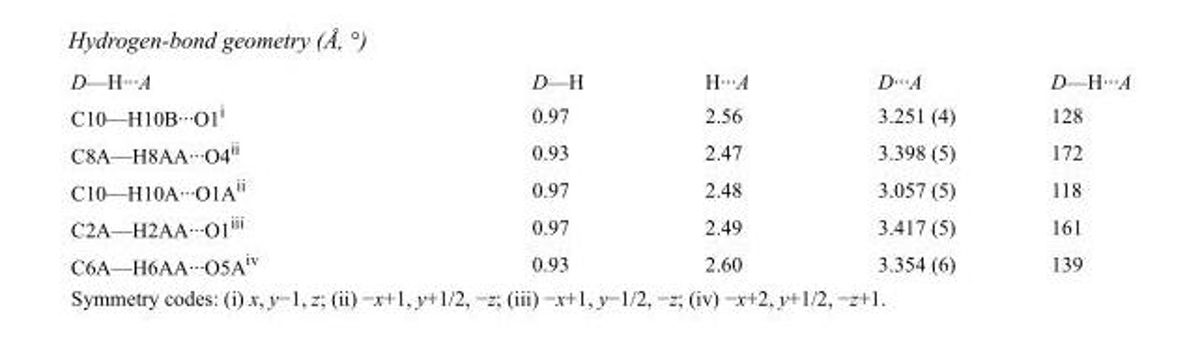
<table><tbody><tr><td>D—H···A</td><td>D—H</td><td>H···A</td><td>D···A</td><td>D—H···A</td></tr><tr><td>C10—H10B···O1<sup>i</sup></td><td>0.97</td><td>2.56</td><td>3.251 (4)</td><td>128</td></tr><tr><td>C8A—H8AA···O4<sup>ii</sup></td><td>0.93</td><td>2.47</td><td>3.398 (5)</td><td>172</td></tr><tr><td>C10—H10A···O1A<sup>ii</sup></td><td>0.97</td><td>2.48</td><td>3.057 (5)</td><td>118</td></tr><tr><td>C2A—H2AA···O1<sup>iii</sup></td><td>0.97</td><td>2.49</td><td>3.417 (5)</td><td>161</td></tr><tr><td>C6A—H6AA···O5A<sup>iv</sup></td><td>0.93</td><td>2.60</td><td>3.354 (6)</td><td>139</td></tr></tbody></table>